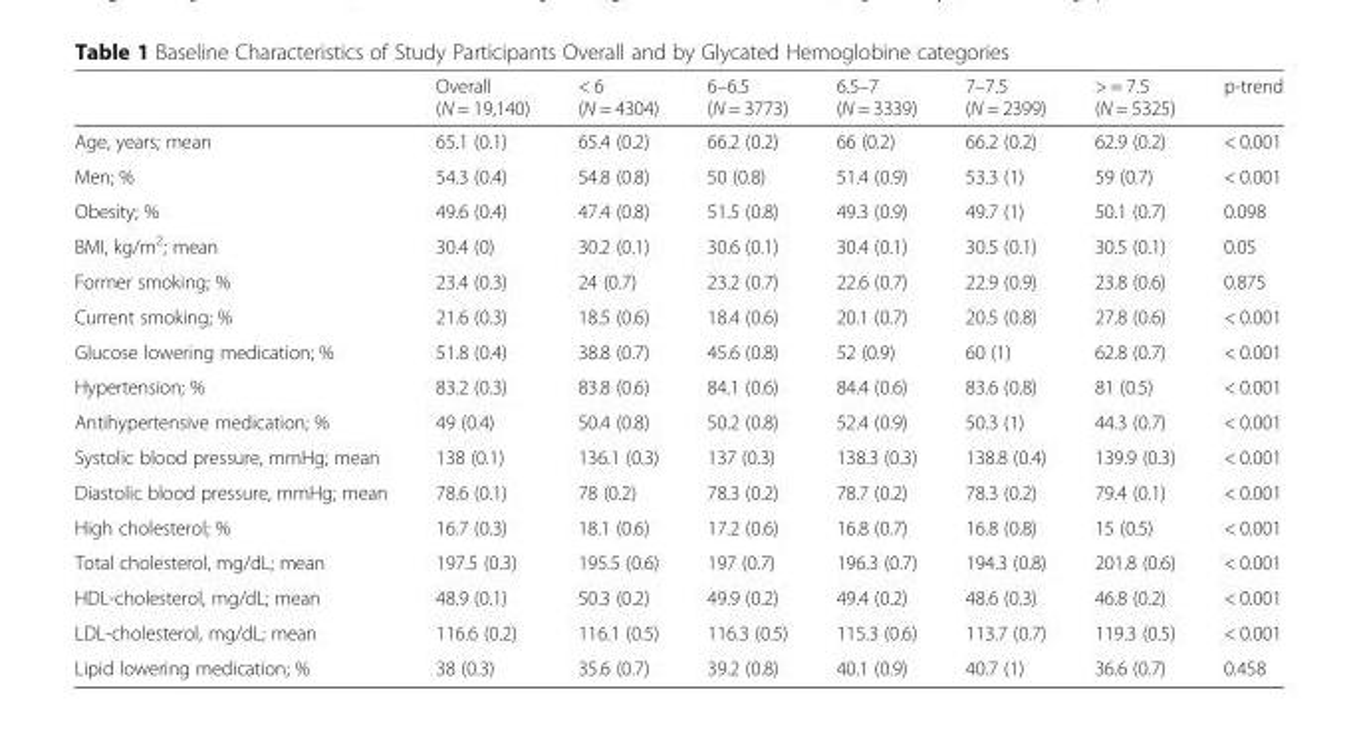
<table><thead><tr><td></td><td>Overall (N = 19,140)</td><td>&lt; 6 (N = 4304)</td><td>6–6.5 (N = 3773)</td><td>6.5–7 (N = 3339)</td><td>7–7.5 (N = 2399)</td><td>&gt; = 7.5 (N = 5325)</td><td>p-trend</td></tr></thead><tbody><tr><td>Age, years; mean</td><td>65.1 (0.1)</td><td>65.4 (0.2)</td><td>66.2 (0.2)</td><td>66 (0.2)</td><td>66.2 (0.2)</td><td>62.9 (0.2)</td><td>&lt; 0.001</td></tr><tr><td>Men; %</td><td>54.3 (0.4)</td><td>54.8 (0.8)</td><td>50 (0.8)</td><td>51.4 (0.9)</td><td>53.3 (1)</td><td>59 (0.7)</td><td>&lt; 0.001</td></tr><tr><td>Obesity; %</td><td>49.6 (0.4)</td><td>47.4 (0.8)</td><td>51.5 (0.8)</td><td>49.3 (0.9)</td><td>49.7 (1)</td><td>50.1 (0.7)</td><td>0.098</td></tr><tr><td>BMI, kg/m<sup>2</sup>; mean</td><td>30.4 (0)</td><td>30.2 (0.1)</td><td>30.6 (0.1)</td><td>30.4 (0.1)</td><td>30.5 (0.1)</td><td>30.5 (0.1)</td><td>0.05</td></tr><tr><td>Former smoking; %</td><td>23.4 (0.3)</td><td>24 (0.7)</td><td>23.2 (0.7)</td><td>22.6 (0.7)</td><td>22.9 (0.9)</td><td>23.8 (0.6)</td><td>0.875</td></tr><tr><td>Current smoking; %</td><td>21.6 (0.3)</td><td>18.5 (0.6)</td><td>18.4 (0.6)</td><td>20.1 (0.7)</td><td>20.5 (0.8)</td><td>27.8 (0.6)</td><td>&lt; 0.001</td></tr><tr><td>Glucose lowering medication; %</td><td>51.8 (0.4)</td><td>38.8 (0.7)</td><td>45.6 (0.8)</td><td>52 (0.9)</td><td>60 (1)</td><td>62.8 (0.7)</td><td>&lt; 0.001</td></tr><tr><td>Hypertension; %</td><td>83.2 (0.3)</td><td>83.8 (0.6)</td><td>84.1 (0.6)</td><td>84.4 (0.6)</td><td>83.6 (0.8)</td><td>81 (0.5)</td><td>&lt; 0.001</td></tr><tr><td>Antihypertensive medication; %</td><td>49 (0.4)</td><td>50.4 (0.8)</td><td>50.2 (0.8)</td><td>52.4 (0.9)</td><td>50.3 (1)</td><td>44.3 (0.7)</td><td>&lt; 0.001</td></tr><tr><td>Systolic blood pressure, mmHg; mean</td><td>138 (0.1)</td><td>136.1 (0.3)</td><td>137 (0.3)</td><td>138.3 (0.3)</td><td>138.8 (0.4)</td><td>139.9 (0.3)</td><td>&lt; 0.001</td></tr><tr><td>Diastolic blood pressure, mmHg; mean</td><td>78.6 (0.1)</td><td>78 (0.2)</td><td>78.3 (0.2)</td><td>78.7 (0.2)</td><td>78.3 (0.2)</td><td>79.4 (0.1)</td><td>&lt; 0.001</td></tr><tr><td>High cholesterol; %</td><td>16.7 (0.3)</td><td>18.1 (0.6)</td><td>17.2 (0.6)</td><td>16.8 (0.7)</td><td>16.8 (0.8)</td><td>15 (0.5)</td><td>&lt; 0.001</td></tr><tr><td>Total cholesterol, mg/dL; mean</td><td>197.5 (0.3)</td><td>195.5 (0.6)</td><td>197 (0.7)</td><td>196.3 (0.7)</td><td>194.3 (0.8)</td><td>201.8 (0.6)</td><td>&lt; 0.001</td></tr><tr><td>HDL-cholesterol, mg/dL; mean</td><td>48.9 (0.1)</td><td>50.3 (0.2)</td><td>49.9 (0.2)</td><td>49.4 (0.2)</td><td>48.6 (0.3)</td><td>46.8 (0.2)</td><td>&lt; 0.001</td></tr><tr><td>LDL-cholesterol, mg/dL; mean</td><td>116.6 (0.2)</td><td>116.1 (0.5)</td><td>116.3 (0.5)</td><td>115.3 (0.6)</td><td>113.7 (0.7)</td><td>119.3 (0.5)</td><td>&lt; 0.001</td></tr><tr><td>Lipid lowering medication; %</td><td>38 (0.3)</td><td>35.6 (0.7)</td><td>39.2 (0.8)</td><td>40.1 (0.9)</td><td>40.7 (1)</td><td>36.6 (0.7)</td><td>0.458</td></tr></tbody></table>